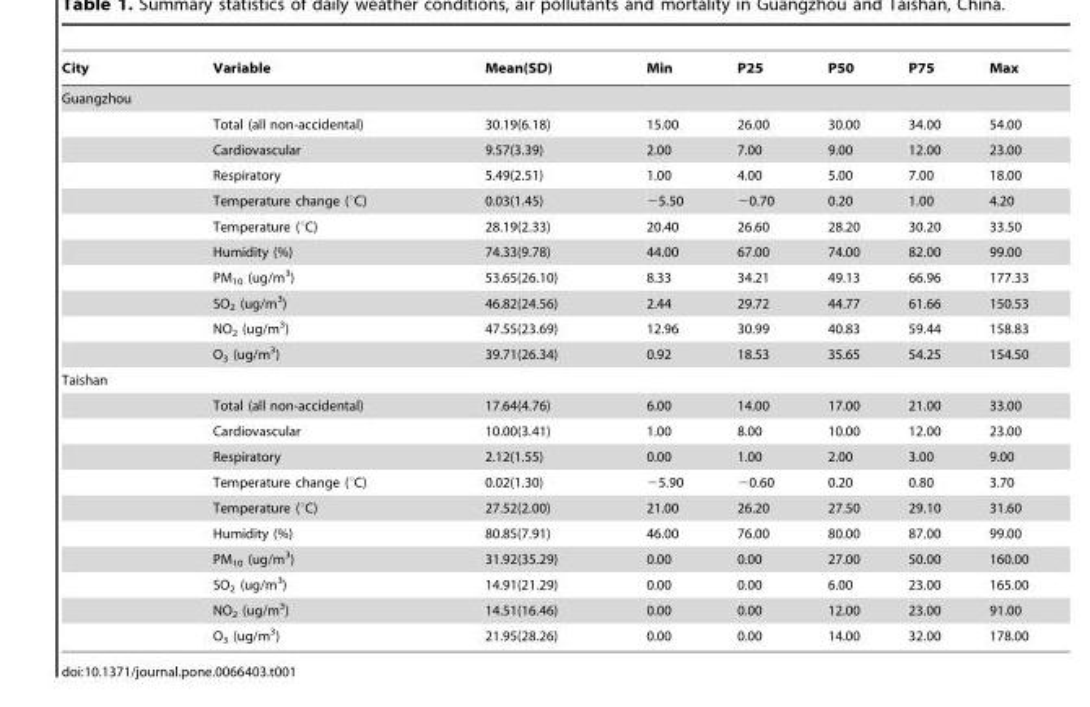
<table><thead><tr><td>City</td><td>Variable</td><td>Mean(SD)</td><td>Min</td><td>P25</td><td>P50</td><td>P75</td><td>Max</td></tr></thead><tbody><tr><td colspan="8">Guangzhou</td></tr><tr><td></td><td>Total (all non-accidental)</td><td>30.19(6.18)</td><td>15.00</td><td>26.00</td><td>30.00</td><td>34.00</td><td>54.00</td></tr><tr><td></td><td>Cardiovascular</td><td>9.57(3.39)</td><td>2.00</td><td>7.00</td><td>9.00</td><td>12.00</td><td>23.00</td></tr><tr><td></td><td>Respiratory</td><td>5.49(2.51)</td><td>1.00</td><td>4.00</td><td>5.00</td><td>7.00</td><td>18.00</td></tr><tr><td></td><td>Temperature change (°C)</td><td>0.03(1.45)</td><td>−5.50</td><td>−0.70</td><td>0.20</td><td>1.00</td><td>4.20</td></tr><tr><td></td><td>Temperature (°C)</td><td>28.19(2.33)</td><td>20.40</td><td>26.60</td><td>28.20</td><td>30.20</td><td>33.50</td></tr><tr><td></td><td>Humidity (%)</td><td>74.33(9.78)</td><td>44.00</td><td>67.00</td><td>74.00</td><td>82.00</td><td>99.00</td></tr><tr><td></td><td>PM<sub>10</sub> (ug/m<sup>3</sup>)</td><td>53.65(26.10)</td><td>8.33</td><td>34.21</td><td>49.13</td><td>66.96</td><td>177.33</td></tr><tr><td></td><td>SO<sub>2</sub> (ug/m<sup>3</sup>)</td><td>46.82(24.56)</td><td>2.44</td><td>29.72</td><td>44.77</td><td>61.66</td><td>150.53</td></tr><tr><td></td><td>NO<sub>2</sub> (ug/m<sup>3</sup>)</td><td>47.55(23.69)</td><td>12.96</td><td>30.99</td><td>40.83</td><td>59.44</td><td>158.83</td></tr><tr><td></td><td>O<sub>3</sub> (ug/m<sup>3</sup>)</td><td>39.71(26.34)</td><td>0.92</td><td>18.53</td><td>35.65</td><td>54.25</td><td>154.50</td></tr><tr><td colspan="8">Taishan</td></tr><tr><td></td><td>Total (all non-accidental)</td><td>17.64(4.76)</td><td>6.00</td><td>14.00</td><td>17.00</td><td>21.00</td><td>33.00</td></tr><tr><td></td><td>Cardiovascular</td><td>10.00(3.41)</td><td>1.00</td><td>8.00</td><td>10.00</td><td>12.00</td><td>23.00</td></tr><tr><td></td><td>Respiratory</td><td>2.12(1.55)</td><td>0.00</td><td>1.00</td><td>2.00</td><td>3.00</td><td>9.00</td></tr><tr><td></td><td>Temperature change (°C)</td><td>0.02(1.30)</td><td>−5.90</td><td>−0.60</td><td>0.20</td><td>0.80</td><td>3.70</td></tr><tr><td></td><td>Temperature (°C)</td><td>27.52(2.00)</td><td>21.00</td><td>26.20</td><td>27.50</td><td>29.10</td><td>31.60</td></tr><tr><td></td><td>Humidity (%)</td><td>80.85(7.91)</td><td>46.00</td><td>76.00</td><td>80.00</td><td>87.00</td><td>99.00</td></tr><tr><td></td><td>PM<sub>10</sub> (ug/m<sup>3</sup>)</td><td>31.92(35.29)</td><td>0.00</td><td>0.00</td><td>27.00</td><td>50.00</td><td>160.00</td></tr><tr><td></td><td>SO<sub>2</sub> (ug/m<sup>3</sup>)</td><td>14.91(21.29)</td><td>0.00</td><td>0.00</td><td>6.00</td><td>23.00</td><td>165.00</td></tr><tr><td></td><td>NO<sub>2</sub> (ug/m<sup>3</sup>)</td><td>14.51(16.46)</td><td>0.00</td><td>0.00</td><td>12.00</td><td>23.00</td><td>91.00</td></tr><tr><td></td><td>O<sub>3</sub> (ug/m<sup>3</sup>)</td><td>21.95(28.26)</td><td>0.00</td><td>0.00</td><td>14.00</td><td>32.00</td><td>178.00</td></tr></tbody></table>